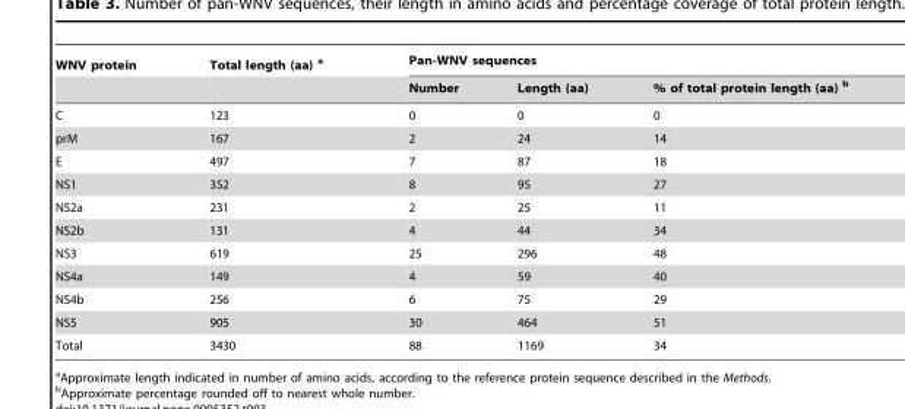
<table><thead><tr><td rowspan="2">WNV protein</td><td rowspan="2">Total length (aa) a</td><td colspan="3">Pan-WNV sequences</td></tr><tr><td>Number</td><td>Length (aa)</td><td>% of total protein length (aa) b</td></tr></thead><tbody><tr><td>C</td><td>123</td><td>0</td><td>0</td><td>0</td></tr><tr><td>prM</td><td>167</td><td>2</td><td>24</td><td>14</td></tr><tr><td>E</td><td>497</td><td>7</td><td>87</td><td>18</td></tr><tr><td>NS1</td><td>352</td><td>8</td><td>95</td><td>27</td></tr><tr><td>NS2a</td><td>231</td><td>2</td><td>25</td><td>11</td></tr><tr><td>NS2b</td><td>131</td><td>4</td><td>44</td><td>34</td></tr><tr><td>NS3</td><td>619</td><td>25</td><td>296</td><td>48</td></tr><tr><td>NS4a</td><td>149</td><td>4</td><td>59</td><td>40</td></tr><tr><td>NS4b</td><td>256</td><td>6</td><td>75</td><td>29</td></tr><tr><td>NS5</td><td>905</td><td>30</td><td>464</td><td>51</td></tr><tr><td>Total</td><td>3430</td><td>88</td><td>1169</td><td>34</td></tr></tbody></table>